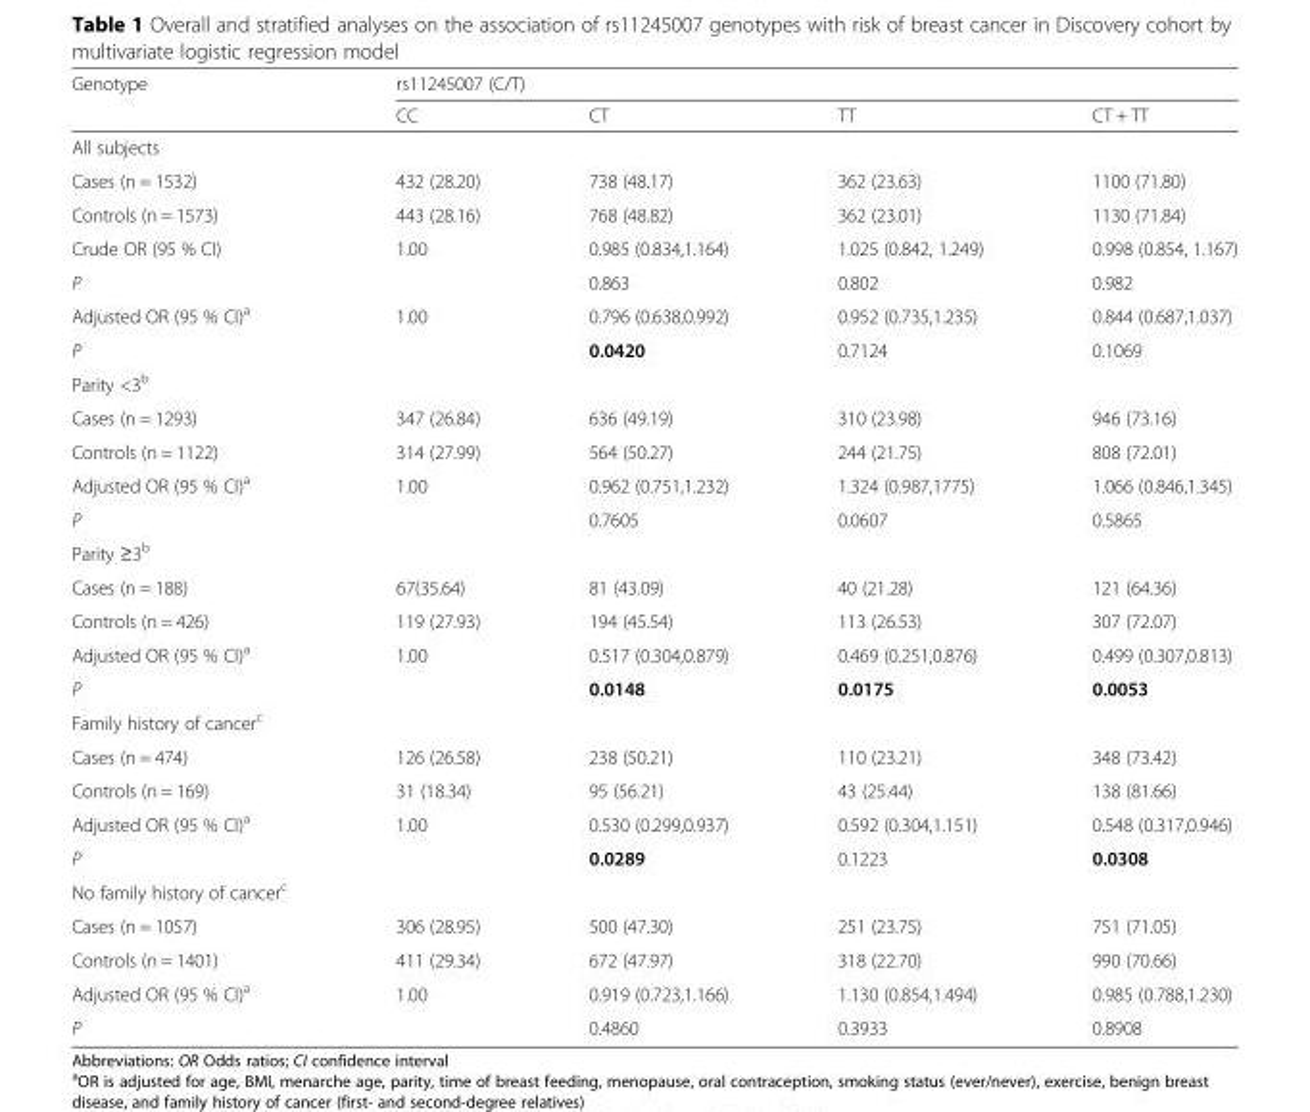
<table><thead><tr><td rowspan="2">Genotype</td><td colspan="4">rs11245007 (C/T)</td></tr><tr><td>CC</td><td>CT</td><td>TT</td><td>CT + TT</td></tr></thead><tbody><tr><td colspan="5">All subjects</td></tr><tr><td>Cases (n = 1532)</td><td>432 (28.20)</td><td>738 (48.17)</td><td>362 (23.63)</td><td>1100 (71.80)</td></tr><tr><td>Controls (n = 1573)</td><td>443 (28.16)</td><td>768 (48.82)</td><td>362 (23.01)</td><td>1130 (71.84)</td></tr><tr><td>Crude OR (95 % CI)</td><td>1.00</td><td>0.985 (0.834,1.164)</td><td>1.025 (0.842, 1.249)</td><td>0.998 (0.854, 1.167)</td></tr><tr><td>P</td><td></td><td>0.863</td><td>0.802</td><td>0.982</td></tr><tr><td>Adjusted OR (95 % CI)<sup>a</sup></td><td>1.00</td><td>0.796 (0.638,0.992)</td><td>0.952 (0.735,1.235)</td><td>0.844 (0.687,1.037)</td></tr><tr><td>P</td><td></td><td>0.0420</td><td>0.7124</td><td>0.1069</td></tr><tr><td colspan="5">Parity &lt;3<sup>b</sup></td></tr><tr><td>Cases (n = 1293)</td><td>347 (26.84)</td><td>636 (49.19)</td><td>310 (23.98)</td><td>946 (73.16)</td></tr><tr><td>Controls (n = 1122)</td><td>314 (27.99)</td><td>564 (50.27)</td><td>244 (21.75)</td><td>808 (72.01)</td></tr><tr><td>Adjusted OR (95 % CI)<sup>a</sup></td><td>1.00</td><td>0.962 (0.751,1.232)</td><td>1.324 (0.987,1775)</td><td>1.066 (0.846,1.345)</td></tr><tr><td>P</td><td></td><td>0.7605</td><td>0.0607</td><td>0.5865</td></tr><tr><td colspan="5">Parity ≥3<sup>b</sup></td></tr><tr><td>Cases (n = 188)</td><td>67(35.64)</td><td>81 (43.09)</td><td>40 (21.28)</td><td>121 (64.36)</td></tr><tr><td>Controls (n = 426)</td><td>119 (27.93)</td><td>194 (45.54)</td><td>113 (26.53)</td><td>307 (72.07)</td></tr><tr><td>Adjusted OR (95 % CI)<sup>a</sup></td><td>1.00</td><td>0.517 (0.304,0.879)</td><td>0.469 (0.251,0.876)</td><td>0.499 (0.307,0.813)</td></tr><tr><td>P</td><td></td><td>0.0148</td><td>0.0175</td><td>0.0053</td></tr><tr><td colspan="5">Family history of cancer<sup>c</sup></td></tr><tr><td>Cases (n = 474)</td><td>126 (26.58)</td><td>238 (50.21)</td><td>110 (23.21)</td><td>348 (73.42)</td></tr><tr><td>Controls (n = 169)</td><td>31 (18.34)</td><td>95 (56.21)</td><td>43 (25.44)</td><td>138 (81.66)</td></tr><tr><td>Adjusted OR (95 % CI)<sup>a</sup></td><td>1.00</td><td>0.530 (0.299,0.937)</td><td>0.592 (0.304,1.151)</td><td>0.548 (0.317,0.946)</td></tr><tr><td>P</td><td></td><td>0.0289</td><td>0.1223</td><td>0.0308</td></tr><tr><td colspan="5">No family history of cancer<sup>c</sup></td></tr><tr><td>Cases (n = 1057)</td><td>306 (28.95)</td><td>500 (47.30)</td><td>251 (23.75)</td><td>751 (71.05)</td></tr><tr><td>Controls (n = 1401)</td><td>411 (29.34)</td><td>672 (47.97)</td><td>318 (22.70)</td><td>990 (70.66)</td></tr><tr><td>Adjusted OR (95 % CI)<sup>a</sup></td><td>1.00</td><td>0.919 (0.723,1.166)</td><td>1.130 (0.854,1.494)</td><td>0.985 (0.788,1.230)</td></tr><tr><td>P</td><td></td><td>0.4860</td><td>0.3933</td><td>0.8908</td></tr></tbody></table>